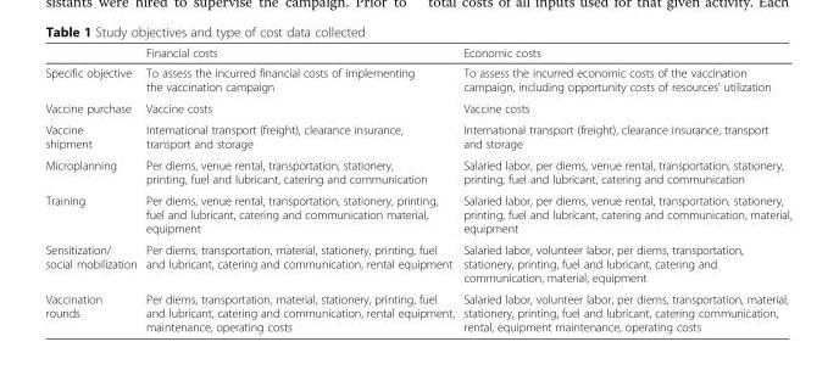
<table><thead><tr><td></td><td>Financial costs</td><td>Economic costs</td></tr></thead><tbody><tr><td>Specific objective</td><td>To assess the incurred financial costs of implementing the vaccination campaign</td><td>To assess the incurred economic costs of the vaccination campaign, including opportunity costs of resources’ utilization</td></tr><tr><td>Vaccine purchase</td><td>Vaccine costs</td><td>Vaccine costs</td></tr><tr><td>Vaccine shipment</td><td>International transport (freight), clearance insurance, transport and storage</td><td>International transport (freight), clearance insurance, transport and storage</td></tr><tr><td>Microplanning</td><td>Per diems, venue rental, transportation, stationery, printing, fuel and lubricant, catering and communication</td><td>Salaried labor, per diems, venue rental, transportation, stationery, printing, fuel and lubricant, catering and communication</td></tr><tr><td>Training</td><td>Per diems, venue rental, transportation, stationery, printing, fuel and lubricant, catering and communication material, equipment</td><td>Salaried labor, per diems, venue rental, transportation, stationery, printing, fuel and lubricant, catering and communication, material, equipment</td></tr><tr><td>Sensitization/ social mobilization</td><td>Per diems, transportation, material, stationery, printing, fuel and lubricant, catering and communication, rental equipment</td><td>Salaried labor, volunteer labor, per diems, transportation, stationery, printing, fuel and lubricant, catering and communication, material, equipment</td></tr><tr><td>Vaccination rounds</td><td>Per diems, transportation, material, stationery, printing, fuel and lubricant, catering and communication, rental equipment, maintenance, operating costs</td><td>Salaried labor, volunteer labor, per diems, transportation, material, stationery, printing, fuel and lubricant, catering communication, rental, equipment maintenance, operating costs</td></tr></tbody></table>